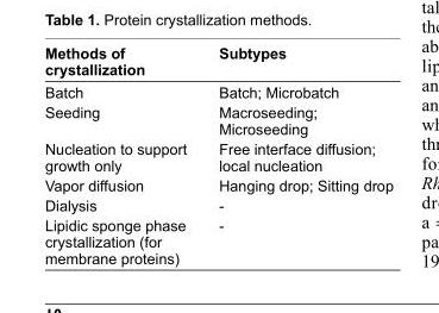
<table><thead><tr><td>Methods of crystallization</td><td>Subtypes</td></tr></thead><tbody><tr><td>Batch</td><td>Batch; Microbatch</td></tr><tr><td>Seeding</td><td>Macroseeding; Microseeding</td></tr><tr><td>Nucleation to support growth only</td><td>Free interface diffusion; local nucleation</td></tr><tr><td>Vapor diffusion</td><td>Hanging drop; Sitting drop</td></tr><tr><td>Dialysis</td><td>-</td></tr><tr><td>Lipidic sponge phase crystallization (for membrane proteins)</td><td>-</td></tr></tbody></table>